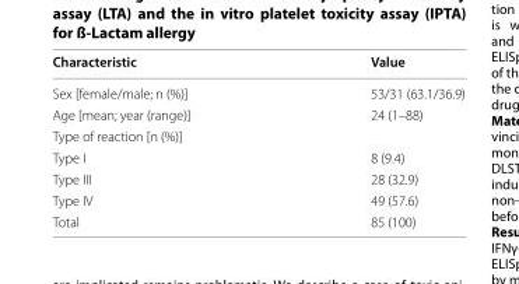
<table><thead><tr><td>Characteristic</td><td>Value</td></tr></thead><tbody><tr><td>Sex [female/male; n (%)]</td><td>53/31 (63.1/36.9)</td></tr><tr><td>Age [mean; year (range)]</td><td>24 (1–88)</td></tr><tr><td colspan="2">Type of reaction [n (%)]</td></tr><tr><td>Type I</td><td>8 (9.4)</td></tr><tr><td>Type III</td><td>28 (32.9)</td></tr><tr><td>Type IV</td><td>49 (57.6)</td></tr><tr><td>Total</td><td>85 (100)</td></tr></tbody></table>